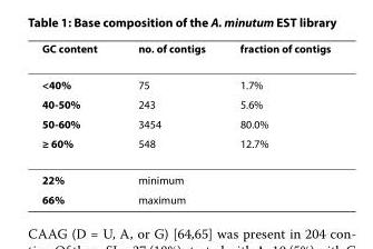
<table><thead><tr><td>GC content</td><td>no. of contigs</td><td>fraction of contigs</td></tr></thead><tbody><tr><td>&lt;40%</td><td>75</td><td>1.7%</td></tr><tr><td>40-50%</td><td>243</td><td>5.6%</td></tr><tr><td>50-60%</td><td>3454</td><td>80.0%</td></tr><tr><td>≥ 60%</td><td>548</td><td>12.7%</td></tr><tr><td>22%</td><td>minimum</td><td></td></tr><tr><td>66%</td><td>maximum</td><td></td></tr></tbody></table>